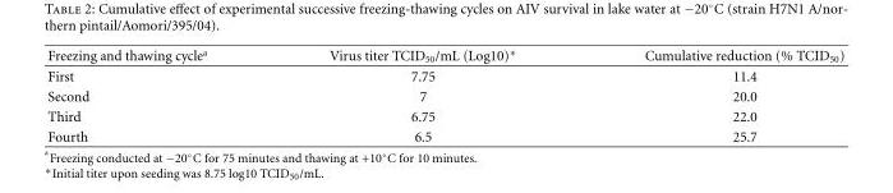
<table><thead><tr><td>Freezing and thawing cycle<sup>a</sup></td><td>Virus titer TCID50/mL (Log10)∗</td><td>Cumulative reduction (% TCID<sub>50</sub>)</td></tr></thead><tbody><tr><td>First</td><td>7.75</td><td>11.4</td></tr><tr><td>Second</td><td>7</td><td>20.0</td></tr><tr><td>Third</td><td>6.75</td><td>22.0</td></tr><tr><td>Fourth</td><td>6.5</td><td>25.7</td></tr></tbody></table>